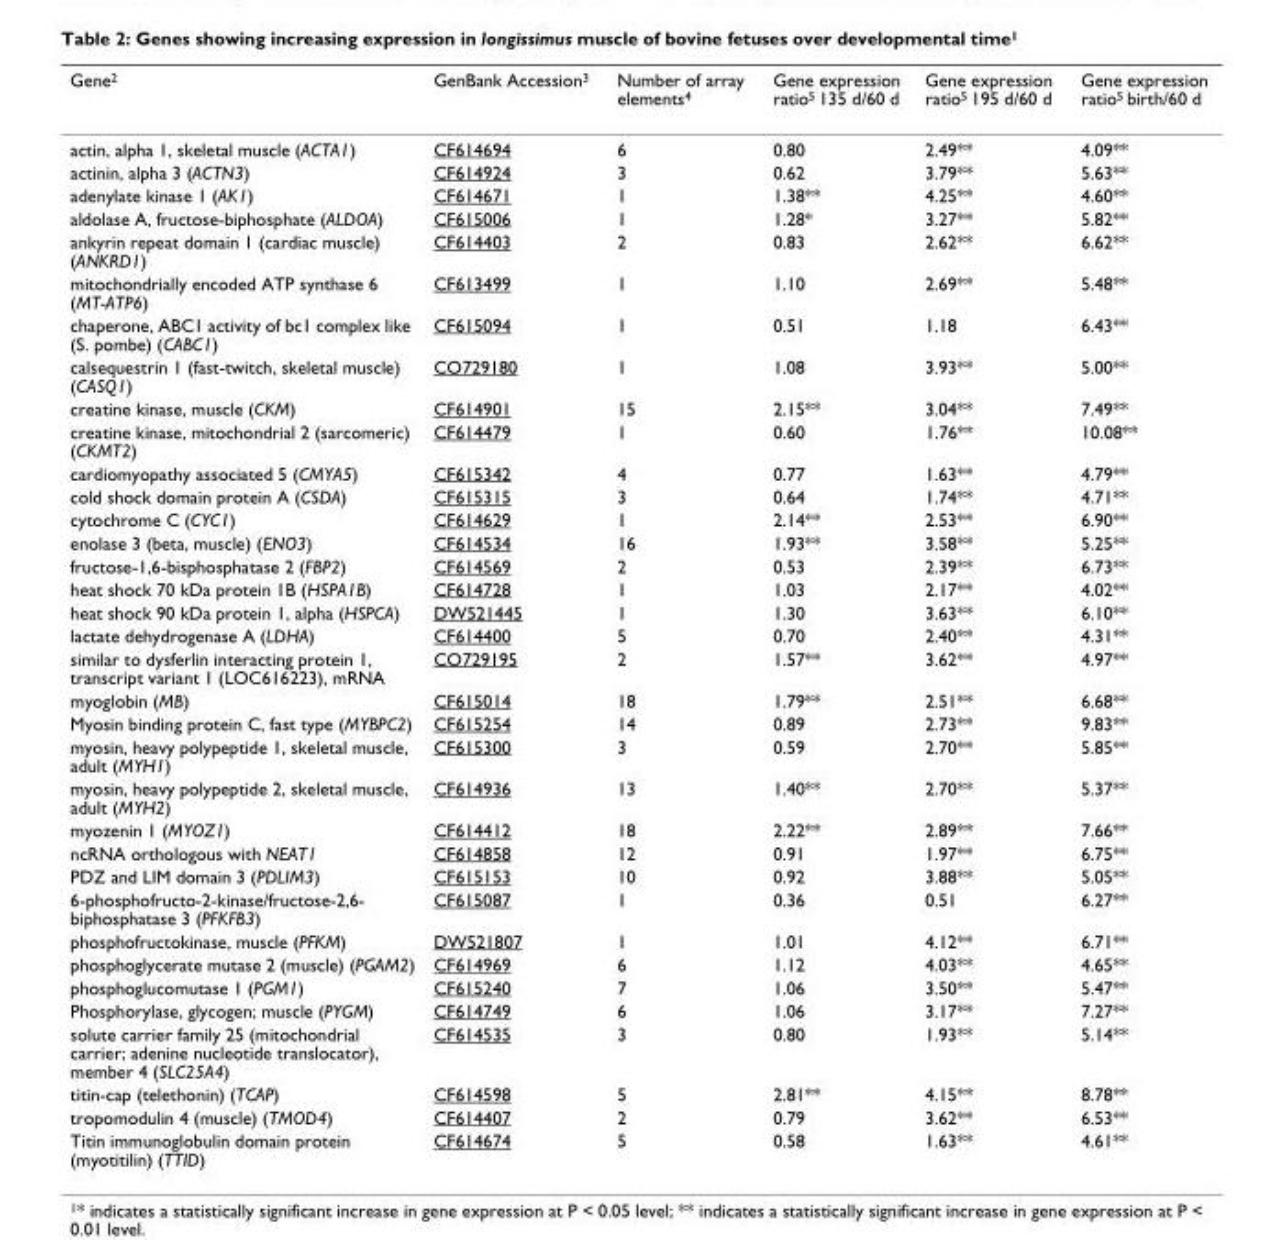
<table><thead><tr><td>Gene<sup>2</sup></td><td>GenBank Accession<sup>3</sup></td><td>Number of array elements<sup>4</sup></td><td>Gene expression ratio<sup>5</sup> 135 d/60 d</td><td>Gene expression ratio<sup>5</sup> 195 d/60 d</td><td>Gene expression ratio<sup>5</sup> birth/60 d</td></tr></thead><tbody><tr><td>actin, alpha 1, skeletal muscle (ACTA1)</td><td>CF614694</td><td>6</td><td>0.80</td><td>2.49**</td><td>4.09**</td></tr><tr><td>actinin, alpha 3 (ACTN3)</td><td>CF614924</td><td>3</td><td>0.62</td><td>3.79**</td><td>5.63**</td></tr><tr><td>adenylate kinase 1 (AK1)</td><td>CF614671</td><td>1</td><td>1.38**</td><td>4.25**</td><td>4.60**</td></tr><tr><td>aldolase A, fructose-biphosphate (ALDOA)</td><td>CF615006</td><td>1</td><td>1.28*</td><td>3.27**</td><td>5.82**</td></tr><tr><td>ankyrin repeat domain 1 (cardiac muscle) (ANKRD1)</td><td>CF614403</td><td>2</td><td>0.83</td><td>2.62**</td><td>6.62**</td></tr><tr><td>mitochondrially encoded ATP synthase 6 (MT-ATP6)</td><td>CF613499</td><td>1</td><td>1.10</td><td>2.69**</td><td>5.48**</td></tr><tr><td>chaperone, ABC1 activity of bc1 complex like (S. pombe) (CABC1)</td><td>CF615094</td><td>1</td><td>0.51</td><td>1.18</td><td>6.43**</td></tr><tr><td>calsequestrin 1 (fast-twitch, skeletal muscle) (CASQ1)</td><td>CO729180</td><td>1</td><td>1.08</td><td>3.93**</td><td>5.00**</td></tr><tr><td>creatine kinase, muscle (CKM)</td><td>CF614901</td><td>15</td><td>2.15**</td><td>3.04**</td><td>7.49**</td></tr><tr><td>creatine kinase, mitochondrial 2 (sarcomeric) (CKMT2)</td><td>CF614479</td><td>1</td><td>0.60</td><td>1.76**</td><td>10.08**</td></tr><tr><td>cardiomyopathy associated 5 (CMYA5)</td><td>CF615342</td><td>4</td><td>0.77</td><td>1.63**</td><td>4.79**</td></tr><tr><td>cold shock domain protein A (CSDA)</td><td>CF615315</td><td>3</td><td>0.64</td><td>1.74**</td><td>4.71**</td></tr><tr><td>cytochrome C (CYC1)</td><td>CF614629</td><td>1</td><td>2.14**</td><td>2.53**</td><td>6.90**</td></tr><tr><td>enolase 3 (beta, muscle) (ENO3)</td><td>CF614534</td><td>16</td><td>1.93**</td><td>3.58**</td><td>5.25**</td></tr><tr><td>fructose-1,6-bisphosphatase 2 (FBP2)</td><td>CF614569</td><td>2</td><td>0.53</td><td>2.39**</td><td>6.73**</td></tr><tr><td>heat shock 70 kDa protein 1B (HSPA1B)</td><td>CF614728</td><td>1</td><td>1.03</td><td>2.17**</td><td>4.02**</td></tr><tr><td>heat shock 90 kDa protein 1, alpha (HSPCA)</td><td>DW521445</td><td>1</td><td>1.30</td><td>3.63**</td><td>6.10**</td></tr><tr><td>lactate dehydrogenase A (LDHA)</td><td>CF614400</td><td>5</td><td>0.70</td><td>2.40**</td><td>4.31**</td></tr><tr><td>similar to dysferlin interacting protein 1, transcript variant 1 (LOC616223), mRNA</td><td>CO729195</td><td>2</td><td>1.57**</td><td>3.62**</td><td>4.97**</td></tr><tr><td>myoglobin (MB)</td><td>CF615014</td><td>18</td><td>1.79**</td><td>2.51**</td><td>6.68**</td></tr><tr><td>Myosin binding protein C, fast type (MYBPC2)</td><td>CF615254</td><td>14</td><td>0.89</td><td>2.73**</td><td>9.83**</td></tr><tr><td>myosin, heavy polypeptide 1, skeletal muscle, adult (MYH1)</td><td>CF615300</td><td>3</td><td>0.59</td><td>2.70**</td><td>5.85**</td></tr><tr><td>myosin, heavy polypeptide 2, skeletal muscle, adult (MYH2)</td><td>CF614936</td><td>13</td><td>1.40**</td><td>2.70**</td><td>5.37**</td></tr><tr><td>myozenin 1 (MYOZ1)</td><td>CF614412</td><td>18</td><td>2.22**</td><td>2.89**</td><td>7.66**</td></tr><tr><td>ncRNA orthologous with NEAT1</td><td>CF614858</td><td>12</td><td>0.91</td><td>1.97**</td><td>6.75**</td></tr><tr><td>PDZ and LIM domain 3 (PDLIM3)</td><td>CF615153</td><td>10</td><td>0.92</td><td>3.88**</td><td>5.05**</td></tr><tr><td>6-phosphofructo-2-kinase/fructose-2,6- biphosphatase 3 (PFKFB3)</td><td>CF615087</td><td>1</td><td>0.36</td><td>0.51</td><td>6.27**</td></tr><tr><td>phosphofructokinase, muscle (PFKM)</td><td>DW521807</td><td>1</td><td>1.01</td><td>4.12**</td><td>6.71**</td></tr><tr><td>phosphoglycerate mutase 2 (muscle) (PGAM2)</td><td>CF614969</td><td>6</td><td>1.12</td><td>4.03**</td><td>4.65**</td></tr><tr><td>phosphoglucomutase 1 (PGM1)</td><td>CF615240</td><td>7</td><td>1.06</td><td>3.50**</td><td>5.47**</td></tr><tr><td>Phosphorylase, glycogen; muscle (PYGM)</td><td>CF614749</td><td>6</td><td>1.06</td><td>3.17**</td><td>7.27**</td></tr><tr><td>solute carrier family 25 (mitochondrial carrier; adenine nucleotide translocator), member 4 (SLC25A4)</td><td>CF614535</td><td>3</td><td>0.80</td><td>1.93**</td><td>5.14**</td></tr><tr><td>titin-cap (telethonin) (TCAP)</td><td>CF614598</td><td>5</td><td>2.81**</td><td>4.15**</td><td>8.78**</td></tr><tr><td>tropomodulin 4 (muscle) (TMOD4)</td><td>CF614407</td><td>2</td><td>0.79</td><td>3.62**</td><td>6.53**</td></tr><tr><td>Titin immunoglobulin domain protein (myotitilin) (TTID)</td><td>CF614674</td><td>5</td><td>0.58</td><td>1.63**</td><td>4.61**</td></tr></tbody></table>